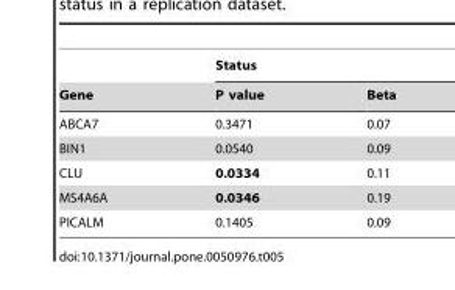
<table><thead><tr><td rowspan="2">Gene</td><td colspan="2">Status</td></tr><tr><td>P value</td><td>Beta</td></tr></thead><tbody><tr><td>ABCA7</td><td>0.3471</td><td>0.07</td></tr><tr><td>BIN1</td><td>0.0540</td><td>0.09</td></tr><tr><td>CLU</td><td>0.0334</td><td>0.11</td></tr><tr><td>MS4A6A</td><td>0.0346</td><td>0.19</td></tr><tr><td>PICALM</td><td>0.1405</td><td>0.09</td></tr></tbody></table>